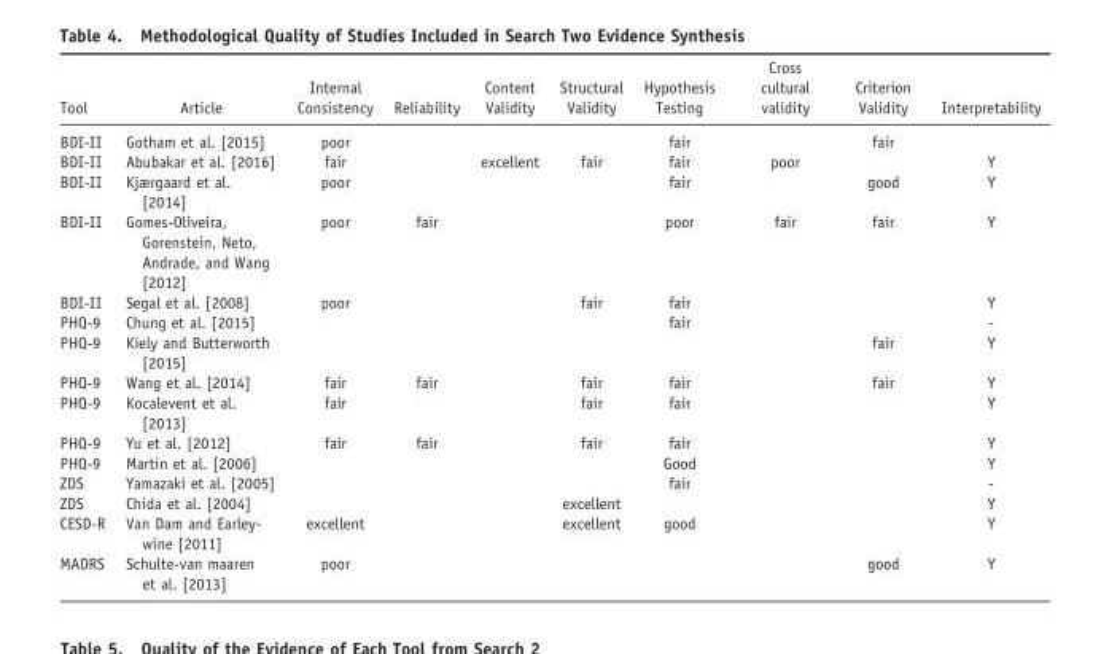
<table><thead><tr><td>Tool</td><td>Article</td><td>Internal Consistency</td><td>Reliability</td><td>Content Validity</td><td>Structural Validity</td><td>Hypothesis Testing</td><td>Cross cultural validity</td><td>Criterion Validity</td><td>Interpretability</td></tr></thead><tbody><tr><td>BDI-II</td><td>Gotham et al. [2015]</td><td>poor</td><td></td><td></td><td></td><td>fair</td><td></td><td>fair</td><td></td></tr><tr><td>BDI-II</td><td>Abubakar et al. [2016]</td><td>fair</td><td></td><td>excellent</td><td>fair</td><td>fair</td><td>poor</td><td></td><td>Y</td></tr><tr><td>BDI-II</td><td>Kjærgaard et al. [2014]</td><td>poor</td><td></td><td></td><td></td><td>fair</td><td></td><td>good</td><td>Y</td></tr><tr><td>BDI-II</td><td>Gomes-Oliveira, Gorenstein, Neto, Andrade, and Wang [2012]</td><td>poor</td><td>fair</td><td></td><td></td><td>poor</td><td>fair</td><td>fair</td><td>Y</td></tr><tr><td>BDI-II</td><td>Segal et al. [2008]</td><td>poor</td><td></td><td></td><td>fair</td><td>fair</td><td></td><td></td><td>Y</td></tr><tr><td>PHQ-9</td><td>Chung et al. [2015]</td><td></td><td></td><td></td><td></td><td>fair</td><td></td><td></td><td>-</td></tr><tr><td>PHQ-9</td><td>Kiely and Butterworth [2015]</td><td></td><td></td><td></td><td></td><td></td><td></td><td>fair</td><td>Y</td></tr><tr><td>PHQ-9</td><td>Wang et al. [2014]</td><td>fair</td><td>fair</td><td></td><td>fair</td><td>fair</td><td></td><td>fair</td><td>Y</td></tr><tr><td>PHQ-9</td><td>Kocalevent et al. [2013]</td><td>fair</td><td></td><td></td><td>fair</td><td>fair</td><td></td><td></td><td>Y</td></tr><tr><td>PHQ-9</td><td>Yu et al. [2012]</td><td>fair</td><td>fair</td><td></td><td>fair</td><td>fair</td><td></td><td></td><td>Y</td></tr><tr><td>PHQ-9</td><td>Martin et al. [2006]</td><td></td><td></td><td></td><td></td><td>Good</td><td></td><td></td><td>Y</td></tr><tr><td>ZDS</td><td>Yamazaki et al. [2005]</td><td></td><td></td><td></td><td></td><td>fair</td><td></td><td></td><td>-</td></tr><tr><td>ZDS</td><td>Chida et al. [2004]</td><td></td><td></td><td></td><td>excellent</td><td></td><td></td><td></td><td>Y</td></tr><tr><td>CESD-R</td><td>Van Dam and Earley- wine [2011]</td><td>excellent</td><td></td><td></td><td>excellent</td><td>good</td><td></td><td></td><td>Y</td></tr><tr><td>MADRS</td><td>Schulte-van maaren et al. [2013]</td><td>poor</td><td></td><td></td><td></td><td></td><td></td><td>good</td><td>Y</td></tr></tbody></table>